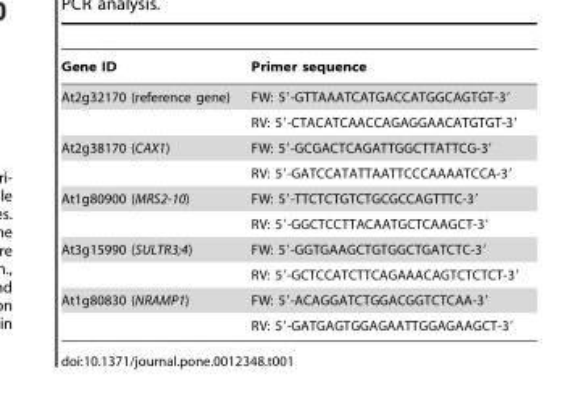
<table><thead><tr><td>Gene ID</td><td>Primer sequence</td></tr></thead><tbody><tr><td rowspan="2">At2g32170 (reference gene)</td><td>FW: 5′-GTTAAATCATGACCATGGCAGTGT-3′</td></tr><tr><td>RV: 5′-CTACATCAACCAGAGGAACATGTGT-3′</td></tr><tr><td rowspan="2">At2g38170 (CAX1)</td><td>FW: 5′-GCGACTCAGATTGGCTTATTCG-3′</td></tr><tr><td>RV: 5′-GATCCATATTAATTCCCAAAATCCA-3′</td></tr><tr><td rowspan="2">At1g80900 (MRS2-10)</td><td>FW: 5′-TTCTCTGTCTGCGCCAGTTTC-3′</td></tr><tr><td>RV: 5′-GGCTCCTTACAATGCTCAAGCT-3′</td></tr><tr><td rowspan="2">At3g15990 (SULTR3;4)</td><td>FW: 5′-GGTGAAGCTGTGGCTGATCTC-3′</td></tr><tr><td>RV: 5′-GCTCCATCTTCAGAAACAGTCTCTCT-3′</td></tr><tr><td rowspan="2">At1g80830 (NRAMP1)</td><td>FW: 5′-ACAGGATCTGGACGGTCTCAA-3′</td></tr><tr><td>RV: 5′-GATGAGTGGAGAATTGGAGAAGCT-3′</td></tr></tbody></table>